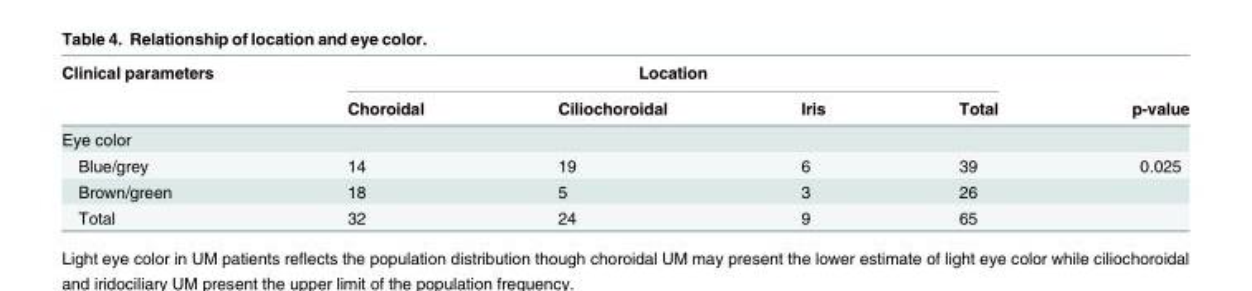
<table><thead><tr><td rowspan="2">Clinical parameters</td><td colspan="4">Location</td><td rowspan="2">p-value</td></tr><tr><td>Choroidal</td><td>Ciliochoroidal</td><td>Iris</td><td>Total</td></tr></thead><tbody><tr><td colspan="6">Eye color</td></tr><tr><td>Blue/grey</td><td>14</td><td>19</td><td>6</td><td>39</td><td>0.025</td></tr><tr><td>Brown/green</td><td>18</td><td>5</td><td>3</td><td>26</td><td></td></tr><tr><td>Total</td><td>32</td><td>24</td><td>9</td><td>65</td><td></td></tr></tbody></table>